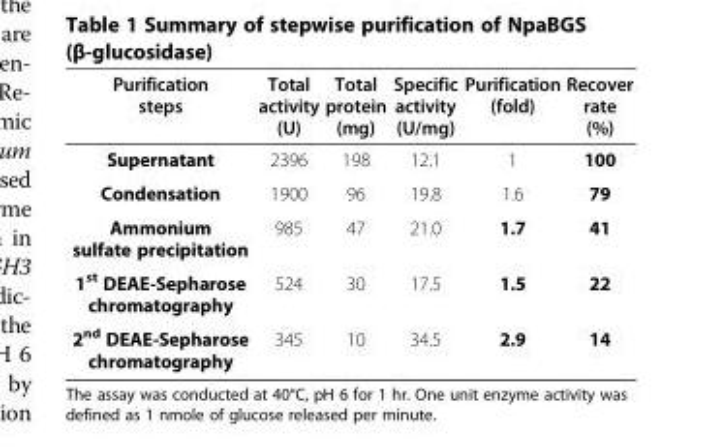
<table><thead><tr><td>Purification steps</td><td>Total activity (U)</td><td>Total protein (mg)</td><td>Specific activity (U/mg)</td><td>Purification (fold)</td><td>Recover rate (%)</td></tr></thead><tbody><tr><td>Supernatant</td><td>2396</td><td>198</td><td>12.1</td><td>1</td><td>100</td></tr><tr><td>Condensation</td><td>1900</td><td>96</td><td>19.8</td><td>1.6</td><td>79</td></tr><tr><td>Ammonium sulfate precipitation</td><td>985</td><td>47</td><td>21.0</td><td>1.7</td><td>41</td></tr><tr><td>1<sup>st</sup> DEAE-Sepharose chromatography</td><td>524</td><td>30</td><td>17.5</td><td>1.5</td><td>22</td></tr><tr><td>2<sup>nd</sup> DEAE-Sepharose chromatography</td><td>345</td><td>10</td><td>34.5</td><td>2.9</td><td>14</td></tr></tbody></table>